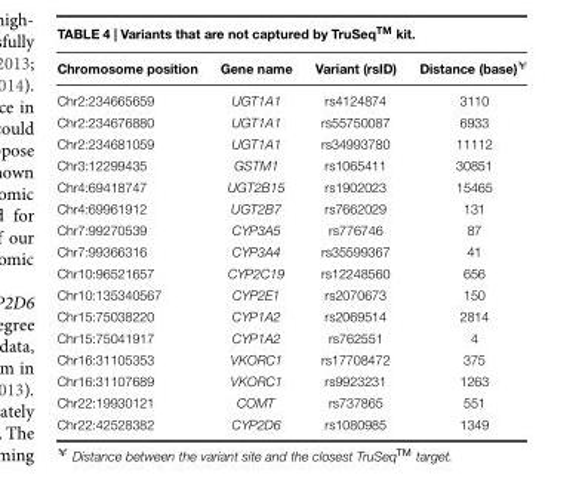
<table><thead><tr><td>Chromosome position</td><td>Gene name</td><td>Variant (rsID)</td><td>Distance (base)<sup>¥</sup></td></tr></thead><tbody><tr><td>Chr2:234665659</td><td>UGT1A1</td><td>rs4124874</td><td>3110</td></tr><tr><td>Chr2:234676880</td><td>UGT1A1</td><td>rs55750087</td><td>6933</td></tr><tr><td>Chr2:234681059</td><td>UGT1A1</td><td>rs34993780</td><td>11112</td></tr><tr><td>Chr3:12299435</td><td>GSTM1</td><td>rs1065411</td><td>30851</td></tr><tr><td>Chr4:69418747</td><td>UGT2B15</td><td>rs1902023</td><td>15465</td></tr><tr><td>Chr4:69961912</td><td>UGT2B7</td><td>rs7662029</td><td>131</td></tr><tr><td>Chr7:99270539</td><td>CYP3A5</td><td>rs776746</td><td>87</td></tr><tr><td>Chr7:99366316</td><td>CYP3A4</td><td>rs35599367</td><td>41</td></tr><tr><td>Chr10:96521657</td><td>CYP2C19</td><td>rs12248560</td><td>656</td></tr><tr><td>Chr10:135340567</td><td>CYP2E1</td><td>rs2070673</td><td>150</td></tr><tr><td>Chr15:75038220</td><td>CYP1A2</td><td>rs2069514</td><td>2814</td></tr><tr><td>Chr15:75041917</td><td>CYP1A2</td><td>rs762551</td><td>4</td></tr><tr><td>Chr16:31105353</td><td>VKORC1</td><td>rs17708472</td><td>375</td></tr><tr><td>Chr16:31107689</td><td>VKORC1</td><td>rs9923231</td><td>1263</td></tr><tr><td>Chr22:19930121</td><td>COMT</td><td>rs737865</td><td>551</td></tr><tr><td>Chr22:42528382</td><td>CYP2D6</td><td>rs1080985</td><td>1349</td></tr></tbody></table>